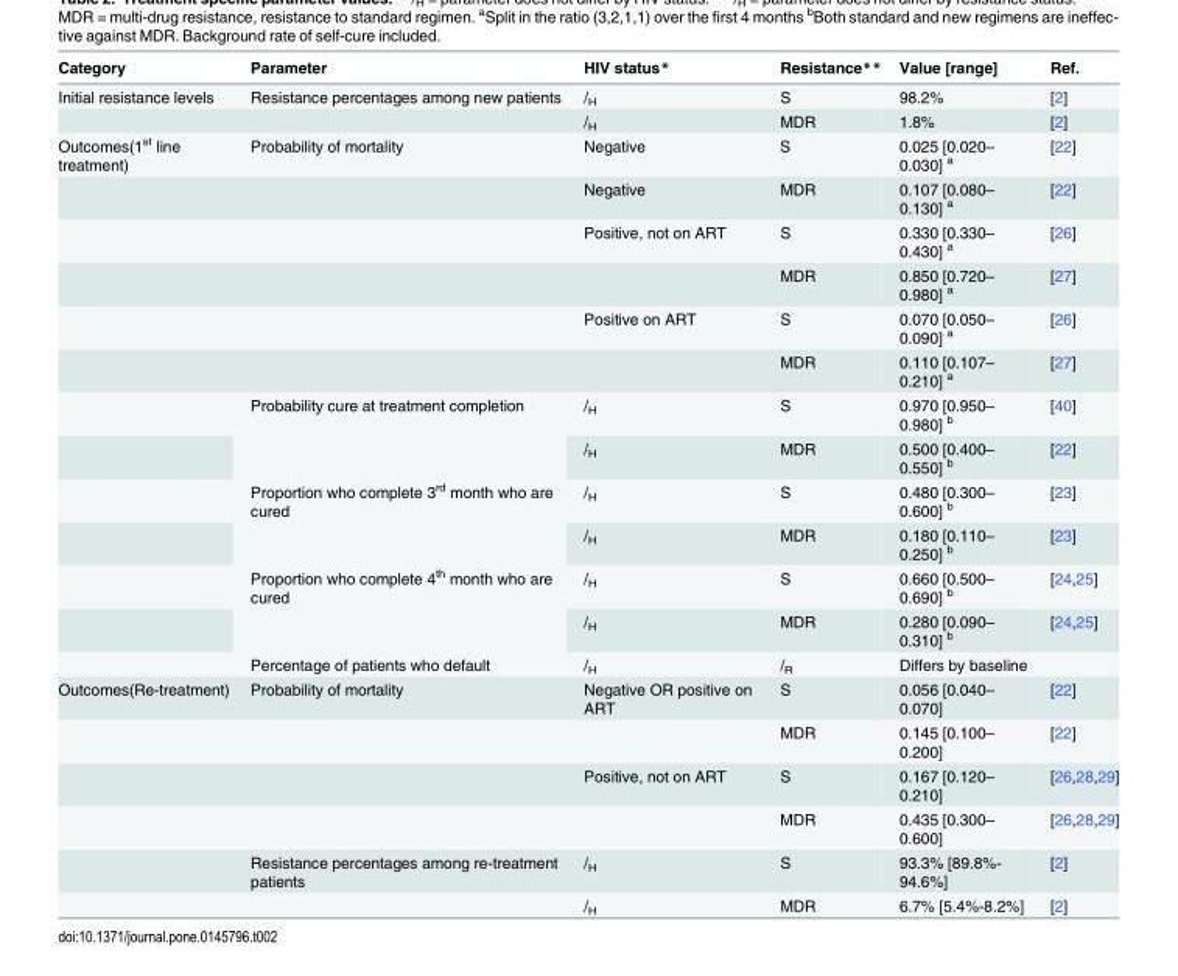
<table><thead><tr><td>Category</td><td>Parameter</td><td>HIV status*</td><td>Resistance**</td><td>Value [range]</td><td>Ref.</td></tr></thead><tbody><tr><td rowspan="2">Initial resistance levels</td><td>Resistance percentages among new patients</td><td>/<sub>H</sub></td><td>S</td><td>98.2%</td><td>[2]</td></tr><tr><td></td><td>/<sub>H</sub></td><td>MDR</td><td>1.8%</td><td>[2]</td></tr><tr><td rowspan="13">Outcomes(1<sup>st</sup> line treatment)</td><td>Probability of mortality</td><td>Negative</td><td>S</td><td>0.025 [0.020– 0.030] <sup>a</sup></td><td>[22]</td></tr><tr><td></td><td>Negative</td><td>MDR</td><td>0.107 [0.080– 0.130] <sup>a</sup></td><td>[22]</td></tr><tr><td></td><td>Positive, not on ART</td><td>S</td><td>0.330 [0.330– 0.430] <sup>a</sup></td><td>[26]</td></tr><tr><td></td><td></td><td>MDR</td><td>0.850 [0.720– 0.980] <sup>a</sup></td><td>[27]</td></tr><tr><td></td><td>Positive on ART</td><td>S</td><td>0.070 [0.050– 0.090] <sup>a</sup></td><td>[26]</td></tr><tr><td></td><td></td><td>MDR</td><td>0.110 [0.107– 0.210] <sup>a</sup></td><td>[27]</td></tr><tr><td rowspan="2">Probability cure at treatment completion</td><td>/<sub>H</sub></td><td>S</td><td>0.970 [0.950– 0.980] <sup>b</sup></td><td>[40]</td></tr><tr><td>/<sub>H</sub></td><td>MDR</td><td>0.500 [0.400– 0.550] <sup>b</sup></td><td>[22]</td></tr><tr><td rowspan="2">Proportion who complete 3<sup>rd</sup> month who are cured</td><td>/<sub>H</sub></td><td>S</td><td>0.480 [0.300– 0.600] <sup>b</sup></td><td>[23]</td></tr><tr><td>/<sub>H</sub></td><td>MDR</td><td>0.180 [0.110– 0.250] <sup>b</sup></td><td>[23]</td></tr><tr><td rowspan="2">Proportion who complete 4<sup>th</sup> month who are cured</td><td>/<sub>H</sub></td><td>S</td><td>0.660 [0.500– 0.690] <sup>b</sup></td><td>[24,25]</td></tr><tr><td>/<sub>H</sub></td><td>MDR</td><td>0.280 [0.090– 0.310] <sup>b</sup></td><td>[24,25]</td></tr><tr><td>Percentage of patients who default</td><td>/<sub>H</sub></td><td>/<sub>R</sub></td><td>Differs by baseline</td><td></td></tr><tr><td rowspan="6">Outcomes(Re-treatment)</td><td>Probability of mortality</td><td>Negative OR positive on ART</td><td>S</td><td>0.056 [0.040– 0.070]</td><td>[22]</td></tr><tr><td></td><td></td><td>MDR</td><td>0.145 [0.100– 0.200]</td><td>[22]</td></tr><tr><td></td><td>Positive, not on ART</td><td>S</td><td>0.167 [0.120– 0.210]</td><td>[26,28,29]</td></tr><tr><td></td><td></td><td>MDR</td><td>0.435 [0.300– 0.600]</td><td>[26,28,29]</td></tr><tr><td>Resistance percentages among re-treatment patients</td><td>/<sub>H</sub></td><td>S</td><td>93.3% [89.8%- 94.6%]</td><td>[2]</td></tr><tr><td></td><td>/<sub>H</sub></td><td>MDR</td><td>6.7% [5.4%-8.2%]</td><td>[2]</td></tr></tbody></table>